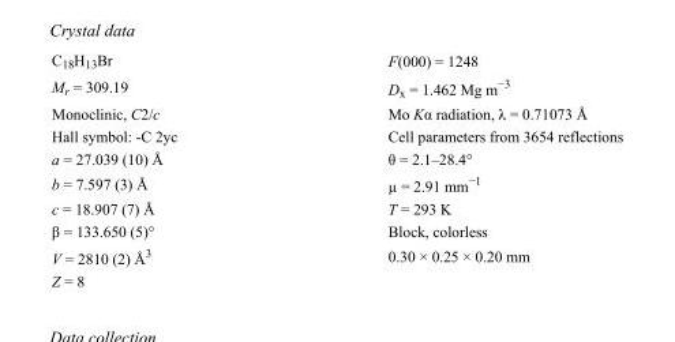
<table><tbody><tr><td>C<sub>18</sub>H<sub>13</sub>Br</td><td>F(000) = 1248</td></tr><tr><td>M<sub>r</sub> = 309.19</td><td>D<sub>x</sub> = 1.462 Mg m<sup>−3</sup></td></tr><tr><td>Monoclinic, C2/c</td><td>Mo Kα radiation, λ = 0.71073 Å</td></tr><tr><td>Hall symbol: -C 2yc</td><td>Cell parameters from 3654 reflections</td></tr><tr><td>a = 27.039 (10) Å</td><td>θ = 2.1–28.4°</td></tr><tr><td>b = 7.597 (3) Å</td><td>µ = 2.91 mm<sup>−1</sup></td></tr><tr><td>c = 18.907 (7) Å</td><td>T = 293 K</td></tr><tr><td>β = 133.650 (5)°</td><td>Block, colorless</td></tr><tr><td>V = 2810 (2) Å<sup>3</sup></td><td>0.30 × 0.25 × 0.20 mm</td></tr><tr><td>Z = 8</td><td></td></tr></tbody></table>